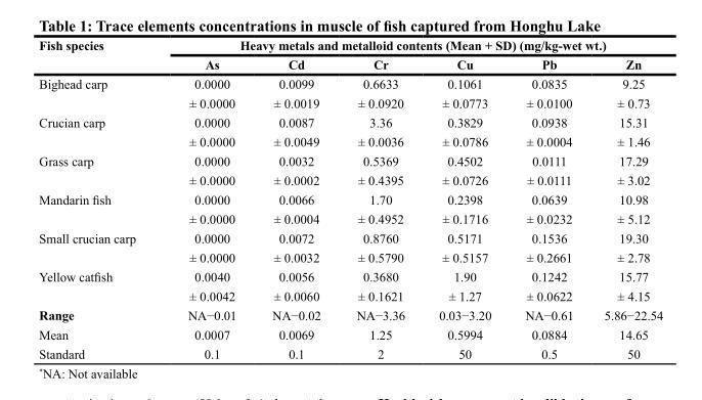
<table><thead><tr><td rowspan="2">Fish species</td><td colspan="6">Heavy metals and metalloid contents (Mean + SD) (mg/kg-wet wt.)</td></tr><tr><td>As</td><td>Cd</td><td>Cr</td><td>Cu</td><td>Pb</td><td>Zn</td></tr></thead><tbody><tr><td rowspan="2">Bighead carp</td><td>0.0000</td><td>0.0099</td><td>0.6633</td><td>0.1061</td><td>0.0835</td><td>9.25</td></tr><tr><td>± 0.0000</td><td>± 0.0019</td><td>± 0.0920</td><td>± 0.0773</td><td>± 0.0100</td><td>± 0.73</td></tr><tr><td rowspan="2">Crucian carp</td><td>0.0000</td><td>0.0087</td><td>3.36</td><td>0.3829</td><td>0.0938</td><td>15.31</td></tr><tr><td>± 0.0000</td><td>± 0.0049</td><td>± 0.0036</td><td>± 0.0786</td><td>± 0.0004</td><td>± 1.46</td></tr><tr><td rowspan="2">Grass carp</td><td>0.0000</td><td>0.0032</td><td>0.5369</td><td>0.4502</td><td>0.0111</td><td>17.29</td></tr><tr><td>± 0.0000</td><td>± 0.0002</td><td>± 0.4395</td><td>± 0.0726</td><td>± 0.0111</td><td>± 3.02</td></tr><tr><td rowspan="2">Mandarin fish</td><td>0.0000</td><td>0.0066</td><td>1.70</td><td>0.2398</td><td>0.0639</td><td>10.98</td></tr><tr><td>± 0.0000</td><td>± 0.0004</td><td>± 0.4952</td><td>± 0.1716</td><td>± 0.0232</td><td>± 5.12</td></tr><tr><td rowspan="2">Small crucian carp</td><td>0.0000</td><td>0.0072</td><td>0.8760</td><td>0.5171</td><td>0.1536</td><td>19.30</td></tr><tr><td>± 0.0000</td><td>± 0.0032</td><td>± 0.5790</td><td>± 0.5157</td><td>± 0.2661</td><td>± 2.78</td></tr><tr><td rowspan="2">Yellow catfish</td><td>0.0040</td><td>0.0056</td><td>0.3680</td><td>1.90</td><td>0.1242</td><td>15.77</td></tr><tr><td>± 0.0042</td><td>± 0.0060</td><td>± 0.1621</td><td>± 1.27</td><td>± 0.0622</td><td>± 4.15</td></tr><tr><td>Range</td><td>NA−0.01</td><td>NA−0.02</td><td>NA−3.36</td><td>0.03−3.20</td><td>NA−0.61</td><td>5.86−22.54</td></tr><tr><td>Mean</td><td>0.0007</td><td>0.0069</td><td>1.25</td><td>0.5994</td><td>0.0884</td><td>14.65</td></tr><tr><td>Standard</td><td>0.1</td><td>0.1</td><td>2</td><td>50</td><td>0.5</td><td>50</td></tr></tbody></table>